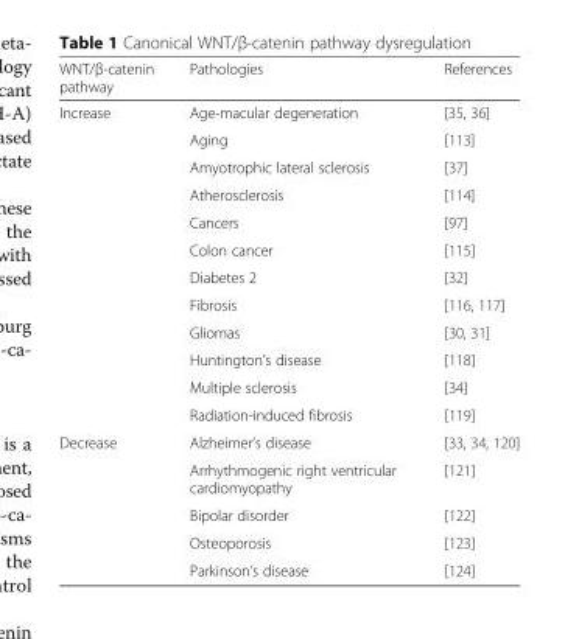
<table><thead><tr><td>WNT/β-catenin pathway</td><td>Pathologies</td><td>References</td></tr></thead><tbody><tr><td rowspan="12">Increase</td><td>Age-macular degeneration</td><td>[35, 36]</td></tr><tr><td>Aging</td><td>[113]</td></tr><tr><td>Amyotrophic lateral sclerosis</td><td>[37]</td></tr><tr><td>Atherosclerosis</td><td>[114]</td></tr><tr><td>Cancers</td><td>[97]</td></tr><tr><td>Colon cancer</td><td>[115]</td></tr><tr><td>Diabetes 2</td><td>[32]</td></tr><tr><td>Fibrosis</td><td>[116, 117]</td></tr><tr><td>Gliomas</td><td>[30, 31]</td></tr><tr><td>Huntington’s disease</td><td>[118]</td></tr><tr><td>Multiple sclerosis</td><td>[34]</td></tr><tr><td>Radiation-induced fibrosis</td><td>[119]</td></tr><tr><td rowspan="5">Decrease</td><td>Alzheimer’s disease</td><td>[33, 34, 120]</td></tr><tr><td>Arrhythmogenic right ventricular cardiomyopathy</td><td>[121]</td></tr><tr><td>Bipolar disorder</td><td>[122]</td></tr><tr><td>Osteoporosis</td><td>[123]</td></tr><tr><td>Parkinson’s disease</td><td>[124]</td></tr></tbody></table>